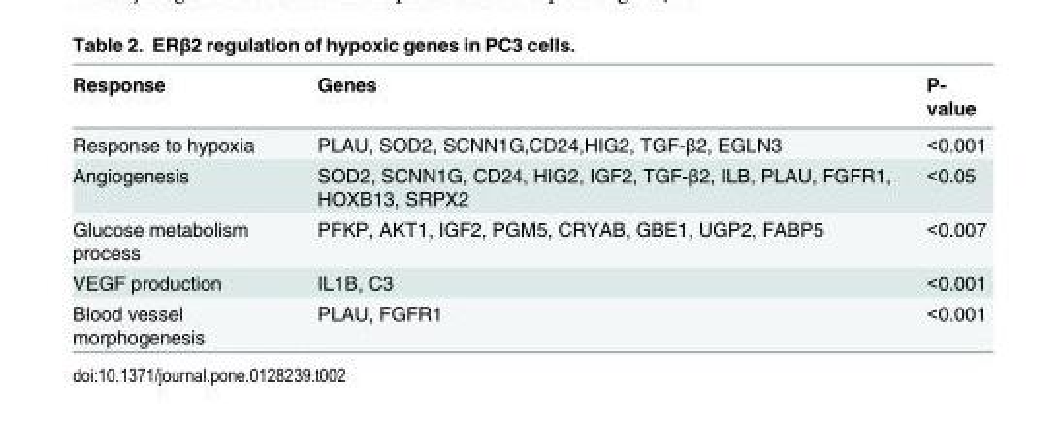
<table><thead><tr><td>Response</td><td>Genes</td><td>P- value</td></tr></thead><tbody><tr><td>Response to hypoxia</td><td>PLAU, SOD2, SCNN1G,CD24,HIG2, TGF-β2, EGLN3</td><td>&lt;0.001</td></tr><tr><td>Angiogenesis</td><td>SOD2, SCNN1G, CD24, HIG2, IGF2, TGF-β2, ILB, PLAU, FGFR1, HOXB13, SRPX2</td><td>&lt;0.05</td></tr><tr><td>Glucose metabolism process</td><td>PFKP, AKT1, IGF2, PGM5, CRYAB, GBE1, UGP2, FABP5</td><td>&lt;0.007</td></tr><tr><td>VEGF production</td><td>IL1B, C3</td><td>&lt;0.001</td></tr><tr><td>Blood vessel morphogenesis</td><td>PLAU, FGFR1</td><td>&lt;0.001</td></tr></tbody></table>